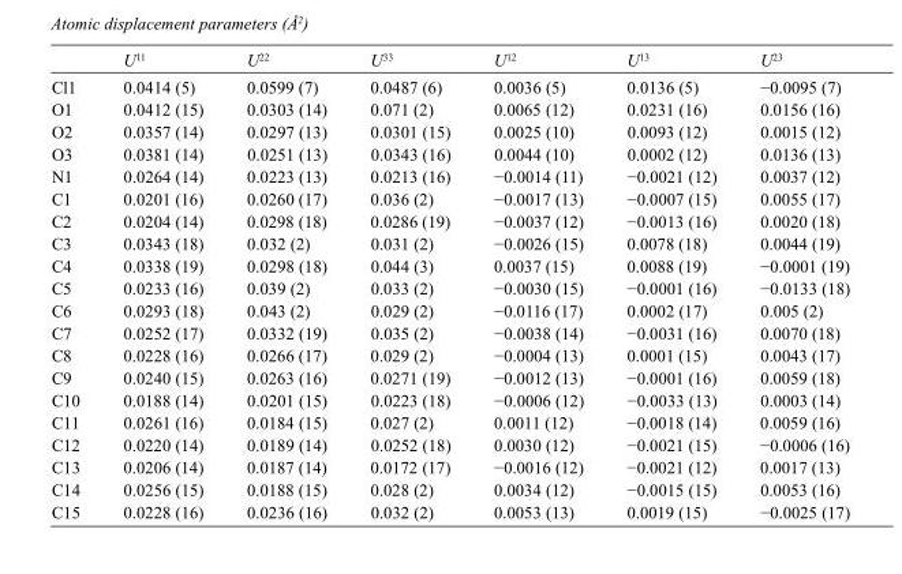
<table><thead><tr><td></td><td>U<sup>11</sup></td><td>U<sup>22</sup></td><td>U<sup>33</sup></td><td>U<sup>12</sup></td><td>U<sup>13</sup></td><td>U<sup>23</sup></td></tr></thead><tbody><tr><td>Cl1</td><td>0.0414 (5)</td><td>0.0599 (7)</td><td>0.0487 (6)</td><td>0.0036 (5)</td><td>0.0136 (5)</td><td>−0.0095 (7)</td></tr><tr><td>O1</td><td>0.0412 (15)</td><td>0.0303 (14)</td><td>0.071 (2)</td><td>0.0065 (12)</td><td>0.0231 (16)</td><td>0.0156 (16)</td></tr><tr><td>O2</td><td>0.0357 (14)</td><td>0.0297 (13)</td><td>0.0301 (15)</td><td>0.0025 (10)</td><td>0.0093 (12)</td><td>0.0015 (12)</td></tr><tr><td>O3</td><td>0.0381 (14)</td><td>0.0251 (13)</td><td>0.0343 (16)</td><td>0.0044 (10)</td><td>0.0002 (12)</td><td>0.0136 (13)</td></tr><tr><td>N1</td><td>0.0264 (14)</td><td>0.0223 (13)</td><td>0.0213 (16)</td><td>−0.0014 (11)</td><td>−0.0021 (12)</td><td>0.0037 (12)</td></tr><tr><td>C1</td><td>0.0201 (16)</td><td>0.0260 (17)</td><td>0.036 (2)</td><td>−0.0017 (13)</td><td>−0.0007 (15)</td><td>0.0055 (17)</td></tr><tr><td>C2</td><td>0.0204 (14)</td><td>0.0298 (18)</td><td>0.0286 (19)</td><td>−0.0037 (12)</td><td>−0.0013 (16)</td><td>0.0020 (18)</td></tr><tr><td>C3</td><td>0.0343 (18)</td><td>0.032 (2)</td><td>0.031 (2)</td><td>−0.0026 (15)</td><td>0.0078 (18)</td><td>0.0044 (19)</td></tr><tr><td>C4</td><td>0.0338 (19)</td><td>0.0298 (18)</td><td>0.044 (3)</td><td>0.0037 (15)</td><td>0.0088 (19)</td><td>−0.0001 (19)</td></tr><tr><td>C5</td><td>0.0233 (16)</td><td>0.039 (2)</td><td>0.033 (2)</td><td>−0.0030 (15)</td><td>−0.0001 (16)</td><td>−0.0133 (18)</td></tr><tr><td>C6</td><td>0.0293 (18)</td><td>0.043 (2)</td><td>0.029 (2)</td><td>−0.0116 (17)</td><td>0.0002 (17)</td><td>0.005 (2)</td></tr><tr><td>C7</td><td>0.0252 (17)</td><td>0.0332 (19)</td><td>0.035 (2)</td><td>−0.0038 (14)</td><td>−0.0031 (16)</td><td>0.0070 (18)</td></tr><tr><td>C8</td><td>0.0228 (16)</td><td>0.0266 (17)</td><td>0.029 (2)</td><td>−0.0004 (13)</td><td>0.0001 (15)</td><td>0.0043 (17)</td></tr><tr><td>C9</td><td>0.0240 (15)</td><td>0.0263 (16)</td><td>0.0271 (19)</td><td>−0.0012 (13)</td><td>−0.0001 (16)</td><td>0.0059 (18)</td></tr><tr><td>C10</td><td>0.0188 (14)</td><td>0.0201 (15)</td><td>0.0223 (18)</td><td>−0.0006 (12)</td><td>−0.0033 (13)</td><td>0.0003 (14)</td></tr><tr><td>C11</td><td>0.0261 (16)</td><td>0.0184 (15)</td><td>0.027 (2)</td><td>0.0011 (12)</td><td>−0.0018 (14)</td><td>0.0059 (16)</td></tr><tr><td>C12</td><td>0.0220 (14)</td><td>0.0189 (14)</td><td>0.0252 (18)</td><td>0.0030 (12)</td><td>−0.0021 (15)</td><td>−0.0006 (16)</td></tr><tr><td>C13</td><td>0.0206 (14)</td><td>0.0187 (14)</td><td>0.0172 (17)</td><td>−0.0016 (12)</td><td>−0.0021 (12)</td><td>0.0017 (13)</td></tr><tr><td>C14</td><td>0.0256 (15)</td><td>0.0188 (15)</td><td>0.028 (2)</td><td>0.0034 (12)</td><td>−0.0015 (15)</td><td>0.0053 (16)</td></tr><tr><td>C15</td><td>0.0228 (16)</td><td>0.0236 (16)</td><td>0.032 (2)</td><td>0.0053 (13)</td><td>0.0019 (15)</td><td>−0.0025 (17)</td></tr></tbody></table>